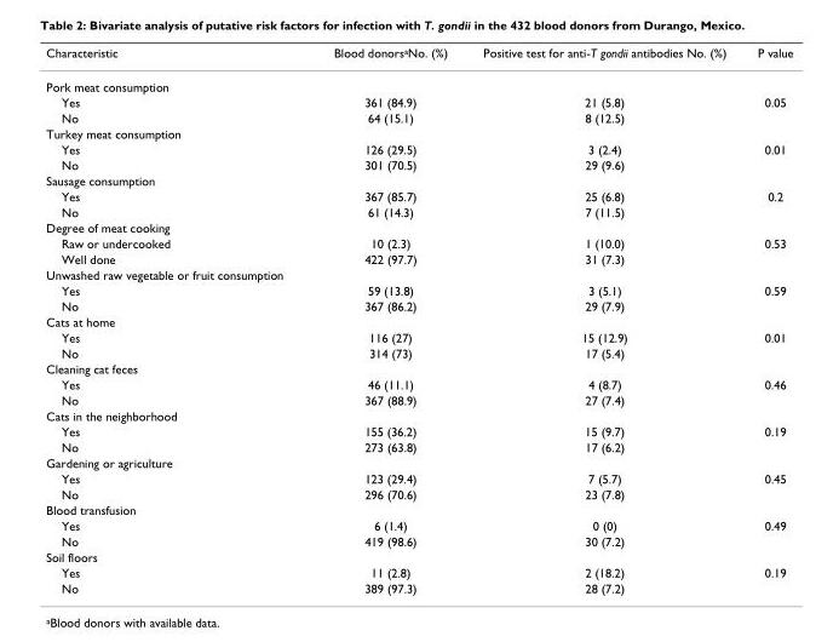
<table><thead><tr><td>Characteristic</td><td>Blood donors<sup>a</sup>No. (%)</td><td>Positive test for anti-T gondii antibodies No. (%)</td><td>P value</td></tr></thead><tbody><tr><td colspan="4">Pork meat consumption</td></tr><tr><td>Yes</td><td>361 (84.9)</td><td>21 (5.8)</td><td>0.05</td></tr><tr><td>No</td><td>64 (15.1)</td><td>8 (12.5)</td><td></td></tr><tr><td colspan="4">Turkey meat consumption</td></tr><tr><td>Yes</td><td>126 (29.5)</td><td>3 (2.4)</td><td>0.01</td></tr><tr><td>No</td><td>301 (70.5)</td><td>29 (9.6)</td><td></td></tr><tr><td colspan="4">Sausage consumption</td></tr><tr><td>Yes</td><td>367 (85.7)</td><td>25 (6.8)</td><td>0.2</td></tr><tr><td>No</td><td>61 (14.3)</td><td>7 (11.5)</td><td></td></tr><tr><td colspan="4">Degree of meat cooking</td></tr><tr><td>Raw or undercooked</td><td>10 (2.3)</td><td>1 (10.0)</td><td>0.53</td></tr><tr><td>Well done</td><td>422 (97.7)</td><td>31 (7.3)</td><td></td></tr><tr><td colspan="4">Unwashed raw vegetable or fruit consumption</td></tr><tr><td>Yes</td><td>59 (13.8)</td><td>3 (5.1)</td><td>0.59</td></tr><tr><td>No</td><td>367 (86.2)</td><td>29 (7.9)</td><td></td></tr><tr><td colspan="4">Cats at home</td></tr><tr><td>Yes</td><td>116 (27)</td><td>15 (12.9)</td><td>0.01</td></tr><tr><td>No</td><td>314 (73)</td><td>17 (5.4)</td><td></td></tr><tr><td colspan="4">Cleaning cat feces</td></tr><tr><td>Yes</td><td>46 (11.1)</td><td>4 (8.7)</td><td>0.46</td></tr><tr><td>No</td><td>367 (88.9)</td><td>27 (7.4)</td><td></td></tr><tr><td colspan="4">Cats in the neighborhood</td></tr><tr><td>Yes</td><td>155 (36.2)</td><td>15 (9.7)</td><td>0.19</td></tr><tr><td>No</td><td>273 (63.8)</td><td>17 (6.2)</td><td></td></tr><tr><td colspan="4">Gardening or agriculture</td></tr><tr><td>Yes</td><td>123 (29.4)</td><td>7 (5.7)</td><td>0.45</td></tr><tr><td>No</td><td>296 (70.6)</td><td>23 (7.8)</td><td></td></tr><tr><td colspan="4">Blood transfusion</td></tr><tr><td>Yes</td><td>6 (1.4)</td><td>0 (0)</td><td>0.49</td></tr><tr><td>No</td><td>419 (98.6)</td><td>30 (7.2)</td><td></td></tr><tr><td colspan="4">Soil floors</td></tr><tr><td>Yes</td><td>11 (2.8)</td><td>2 (18.2)</td><td>0.19</td></tr><tr><td>No</td><td>389 (97.3)</td><td>28 (7.2)</td><td></td></tr></tbody></table>